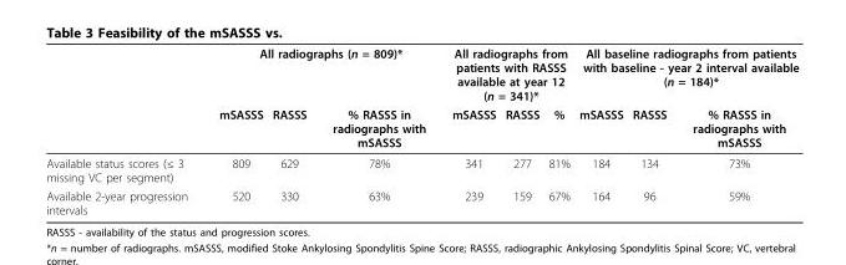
<table><thead><tr><td rowspan="2"></td><td colspan="3">All radiographs (n = 809)*</td><td colspan="3">All radiographs from patients with RASSS available at year 12 (n = 341)*</td><td colspan="3">All baseline radiographs from patients with baseline - year 2 interval available (n = 184)*</td></tr><tr><td>mSASSS</td><td>RASSS</td><td>% RASSS in radiographs with mSASSS</td><td>mSASSS</td><td>RASSS</td><td>%</td><td>mSASSS</td><td>RASSS</td><td>% RASSS in radiographs with mSASSS</td></tr></thead><tbody><tr><td>Available status scores (≤ 3 missing VC per segment)</td><td>809</td><td>629</td><td>78%</td><td>341</td><td>277</td><td>81%</td><td>184</td><td>134</td><td>73%</td></tr><tr><td>Available 2-year progression intervals</td><td>520</td><td>330</td><td>63%</td><td>239</td><td>159</td><td>67%</td><td>164</td><td>96</td><td>59%</td></tr></tbody></table>